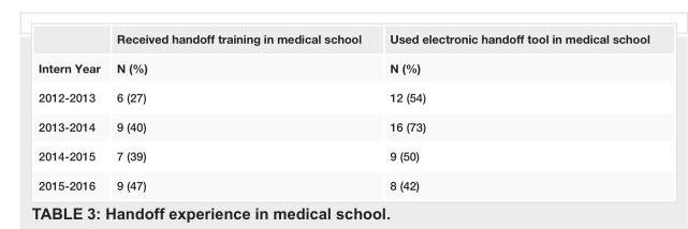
<table><thead><tr><td></td><td>Received handoff training in medical school</td><td>Used electronic handoff tool in medical school</td></tr></thead><tbody><tr><td>Intern Year</td><td>N (%)</td><td>N (%)</td></tr><tr><td>2012-2013</td><td>6 (27)</td><td>12 (54)</td></tr><tr><td>2013-2014</td><td>9 (40)</td><td>16 (73)</td></tr><tr><td>2014-2015</td><td>7 (39)</td><td>9 (50)</td></tr><tr><td>2015-2016</td><td>9 (47)</td><td>8 (42)</td></tr></tbody></table>